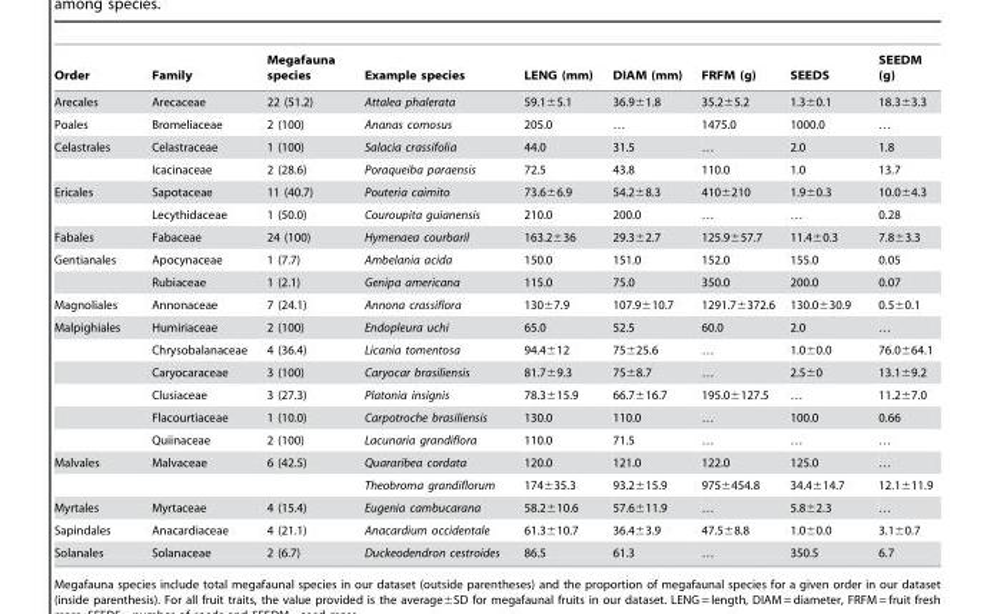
<table><thead><tr><td>Order</td><td>Family</td><td>Megafauna species</td><td>Example species</td><td>LENG (mm)</td><td>DIAM (mm)</td><td>FRFM (g)</td><td>SEEDS</td><td>SEEDM (g)</td></tr></thead><tbody><tr><td>Arecales</td><td>Arecaceae</td><td>22 (51.2)</td><td>Attalea phalerata</td><td>59.1±5.1</td><td>36.9±1.8</td><td>35.2±5.2</td><td>1.3±0.1</td><td>18.3±3.3</td></tr><tr><td>Poales</td><td>Bromeliaceae</td><td>2 (100)</td><td>Ananas comosus</td><td>205.0</td><td>…</td><td>1475.0</td><td>1000.0</td><td>…</td></tr><tr><td rowspan="2">Celastrales</td><td>Celastraceae</td><td>1 (100)</td><td>Salacia crassifolia</td><td>44.0</td><td>31.5</td><td>…</td><td>2.0</td><td>1.8</td></tr><tr><td>Icacinaceae</td><td>2 (28.6)</td><td>Poraqueiba paraensis</td><td>72.5</td><td>43.8</td><td>110.0</td><td>1.0</td><td>13.7</td></tr><tr><td rowspan="2">Ericales</td><td>Sapotaceae</td><td>11 (40.7)</td><td>Pouteria caimito</td><td>73.6±6.9</td><td>54.2±8.3</td><td>410±210</td><td>1.9±0.3</td><td>10.0±4.3</td></tr><tr><td>Lecythidaceae</td><td>1 (50.0)</td><td>Couroupita guianensis</td><td>210.0</td><td>200.0</td><td>…</td><td>…</td><td>0.28</td></tr><tr><td>Fabales</td><td>Fabaceae</td><td>24 (100)</td><td>Hymenaea courbaril</td><td>163.2±36</td><td>29.3±2.7</td><td>125.9±57.7</td><td>11.4±0.3</td><td>7.8±3.3</td></tr><tr><td rowspan="2">Gentianales</td><td>Apocynaceae</td><td>1 (7.7)</td><td>Ambelania acida</td><td>150.0</td><td>151.0</td><td>152.0</td><td>155.0</td><td>0.05</td></tr><tr><td>Rubiaceae</td><td>1 (2.1)</td><td>Genipa americana</td><td>115.0</td><td>75.0</td><td>350.0</td><td>200.0</td><td>0.07</td></tr><tr><td>Magnoliales</td><td>Annonaceae</td><td>7 (24.1)</td><td>Annona crassiflora</td><td>130±7.9</td><td>107.9±10.7</td><td>1291.7±372.6</td><td>130.0±30.9</td><td>0.5±0.1</td></tr><tr><td rowspan="6">Malpighiales</td><td>Humiriaceae</td><td>2 (100)</td><td>Endopleura uchi</td><td>65.0</td><td>52.5</td><td>60.0</td><td>2.0</td><td>…</td></tr><tr><td>Chrysobalanaceae</td><td>4 (36.4)</td><td>Licania tomentosa</td><td>94.4±12</td><td>75±25.6</td><td>…</td><td>1.0±0.0</td><td>76.0±64.1</td></tr><tr><td>Caryocaraceae</td><td>3 (100)</td><td>Caryocar brasiliensis</td><td>81.7±9.3</td><td>75±8.7</td><td>…</td><td>2.5±0</td><td>13.1±9.2</td></tr><tr><td>Clusiaceae</td><td>3 (27.3)</td><td>Platonia insignis</td><td>78.3±15.9</td><td>66.7±16.7</td><td>195.0±127.5</td><td>…</td><td>11.2±7.0</td></tr><tr><td>Flacourtiaceae</td><td>1 (10.0)</td><td>Carpotroche brasiliensis</td><td>130.0</td><td>110.0</td><td>…</td><td>100.0</td><td>0.66</td></tr><tr><td>Quiinaceae</td><td>2 (100)</td><td>Lacunaria grandiflora</td><td>110.0</td><td>71.5</td><td>…</td><td>…</td><td>…</td></tr><tr><td rowspan="2">Malvales</td><td>Malvaceae</td><td>6 (42.5)</td><td>Quararibea cordata</td><td>120.0</td><td>121.0</td><td>122.0</td><td>125.0</td><td>…</td></tr><tr><td></td><td></td><td>Theobroma grandiflorum</td><td>174±35.3</td><td>93.2±15.9</td><td>975±454.8</td><td>34.4±14.7</td><td>12.1±11.9</td></tr><tr><td>Myrtales</td><td>Myrtaceae</td><td>4 (15.4)</td><td>Eugenia cambucarana</td><td>58.2±10.6</td><td>57.6±11.9</td><td>…</td><td>5.8±2.3</td><td>…</td></tr><tr><td>Sapindales</td><td>Anacardiaceae</td><td>4 (21.1)</td><td>Anacardium occidentale</td><td>61.3±10.7</td><td>36.4±3.9</td><td>47.5±8.8</td><td>1.0±0.0</td><td>3.1±0.7</td></tr><tr><td>Solanales</td><td>Solanaceae</td><td>2 (6.7)</td><td>Duckeodendron cestroides</td><td>86.5</td><td>61.3</td><td>…</td><td>350.5</td><td>6.7</td></tr></tbody></table>